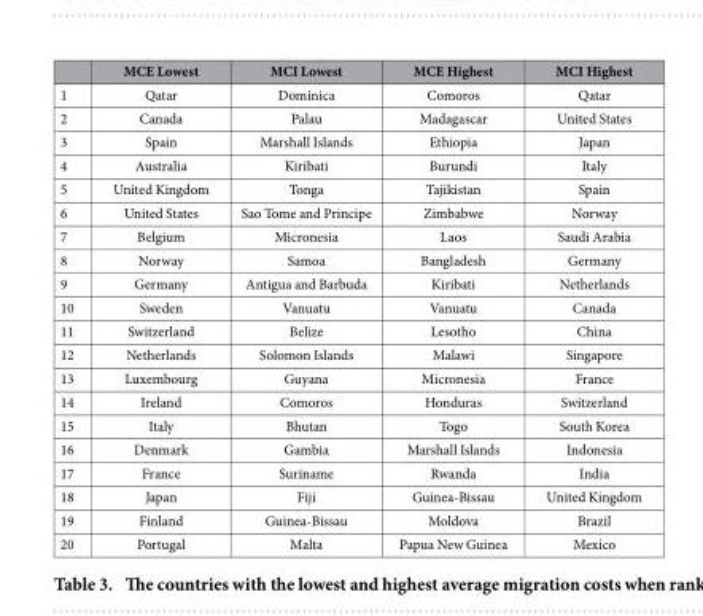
<table><thead><tr><td></td><td>MCE Lowest</td><td>MCI Lowest</td><td>MCE Highest</td><td>MCI Highest</td></tr></thead><tbody><tr><td>1</td><td>Qatar</td><td>Dominica</td><td>Comoros</td><td>Qatar</td></tr><tr><td>2</td><td>Canada</td><td>Palau</td><td>Madagascar</td><td>United States</td></tr><tr><td>3</td><td>Spain</td><td>Marshall Islands</td><td>Ethiopia</td><td>Japan</td></tr><tr><td>4</td><td>Australia</td><td>Kiribati</td><td>Burundi</td><td>Italy</td></tr><tr><td>5</td><td>United Kingdom</td><td>Tonga</td><td>Tajikistan</td><td>Spain</td></tr><tr><td>6</td><td>United States</td><td>Sao Tome and Principe</td><td>Zimbabwe</td><td>Norway</td></tr><tr><td>7</td><td>Belgium</td><td>Micronesia</td><td>Laos</td><td>Saudi Arabia</td></tr><tr><td>8</td><td>Norway</td><td>Samoa</td><td>Bangladesh</td><td>Germany</td></tr><tr><td>9</td><td>Germany</td><td>Antigua and Barbuda</td><td>Kiribati</td><td>Netherlands</td></tr><tr><td>10</td><td>Sweden</td><td>Vanuatu</td><td>Vanuatu</td><td>Canada</td></tr><tr><td>11</td><td>Switzerland</td><td>Belize</td><td>Lesotho</td><td>China</td></tr><tr><td>12</td><td>Netherlands</td><td>Solomon Islands</td><td>Malawi</td><td>Singapore</td></tr><tr><td>13</td><td>Luxembourg</td><td>Guyana</td><td>Micronesia</td><td>France</td></tr><tr><td>14</td><td>Ireland</td><td>Comoros</td><td>Honduras</td><td>Switzerland</td></tr><tr><td>15</td><td>Italy</td><td>Bhutan</td><td>Togo</td><td>South Korea</td></tr><tr><td>16</td><td>Denmark</td><td>Gambia</td><td>Marshall Islands</td><td>Indonesia</td></tr><tr><td>17</td><td>France</td><td>Suriname</td><td>Rwanda</td><td>India</td></tr><tr><td>18</td><td>Japan</td><td>Fiji</td><td>Guinea-Bissau</td><td>United Kingdom</td></tr><tr><td>19</td><td>Finland</td><td>Guinea-Bissau</td><td>Moldova</td><td>Brazil</td></tr><tr><td>20</td><td>Portugal</td><td>Malta</td><td>Papua New Guinea</td><td>Mexico</td></tr></tbody></table>